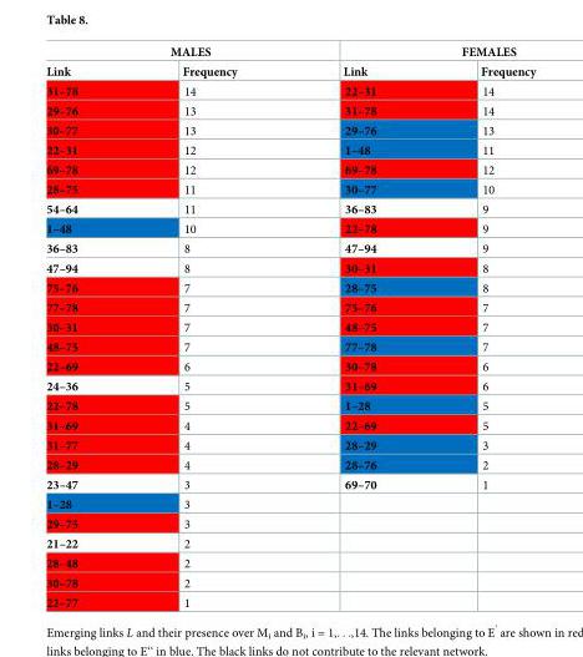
<table><thead><tr><td colspan="2">MALES</td><td colspan="2">FEMALES</td></tr><tr><td>Link</td><td>Frequency</td><td>Link</td><td>Frequency</td></tr></thead><tbody><tr><td>31–78</td><td>14</td><td>22–31</td><td>14</td></tr><tr><td>29–76</td><td>13</td><td>31–78</td><td>14</td></tr><tr><td>30–77</td><td>13</td><td>29–76</td><td>13</td></tr><tr><td>22–31</td><td>12</td><td>1–48</td><td>11</td></tr><tr><td>69–78</td><td>12</td><td>69–78</td><td>12</td></tr><tr><td>28–75</td><td>11</td><td>30–77</td><td>10</td></tr><tr><td>54–64</td><td>11</td><td>36–83</td><td>9</td></tr><tr><td>1–48</td><td>10</td><td>22–78</td><td>9</td></tr><tr><td>36–83</td><td>8</td><td>47–94</td><td>9</td></tr><tr><td>47–94</td><td>8</td><td>30–31</td><td>8</td></tr><tr><td>75–76</td><td>7</td><td>28–75</td><td>8</td></tr><tr><td>77–78</td><td>7</td><td>75–76</td><td>7</td></tr><tr><td>30–31</td><td>7</td><td>48–75</td><td>7</td></tr><tr><td>48–75</td><td>7</td><td>77–78</td><td>7</td></tr><tr><td>22–69</td><td>6</td><td>30–78</td><td>6</td></tr><tr><td>24–36</td><td>5</td><td>31–69</td><td>6</td></tr><tr><td>22–78</td><td>5</td><td>1–28</td><td>5</td></tr><tr><td>31–69</td><td>4</td><td>22–69</td><td>5</td></tr><tr><td>31–77</td><td>4</td><td>28–29</td><td>3</td></tr><tr><td>28–29</td><td>4</td><td>28–76</td><td>2</td></tr><tr><td>23–47</td><td>3</td><td>69–70</td><td>1</td></tr><tr><td>1–28</td><td>3</td><td></td><td></td></tr><tr><td>29–75</td><td>3</td><td></td><td></td></tr><tr><td>21–22</td><td>2</td><td></td><td></td></tr><tr><td>28–48</td><td>2</td><td></td><td></td></tr><tr><td>30–78</td><td>2</td><td></td><td></td></tr><tr><td>22–77</td><td>1</td><td></td><td></td></tr></tbody></table>